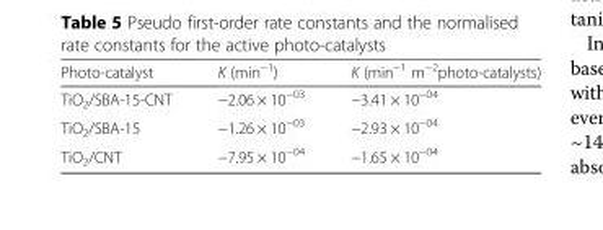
<table><thead><tr><td>Photo-catalyst</td><td>K (min<sup>−1</sup>)</td><td>K (min<sup>−1</sup> m<sup>−2</sup>photo-catalysts)</td></tr></thead><tbody><tr><td>TiO<sub>2</sub>/SBA-15-CNT</td><td>−2.06 × 10<sup>−03</sup></td><td>−3.41 × 10<sup>−04</sup></td></tr><tr><td>TiO<sub>2</sub>/SBA-15</td><td>−1.26 × 10<sup>−03</sup></td><td>−2.93 × 10<sup>−04</sup></td></tr><tr><td>TiO<sub>2</sub>/CNT</td><td>−7.95 × 10<sup>−04</sup></td><td>−1.65 × 10<sup>−04</sup></td></tr></tbody></table>